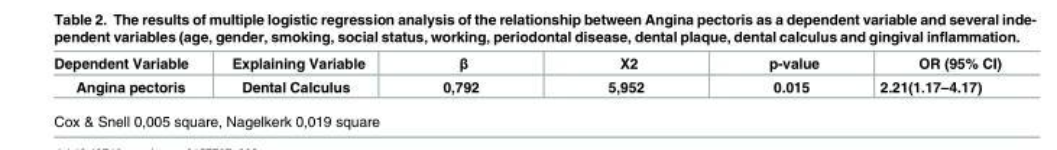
<table><thead><tr><td>Dependent Variable</td><td>Explaining Variable</td><td>β</td><td>X2</td><td>p-value</td><td>OR (95% CI)</td></tr></thead><tbody><tr><td>Angina pectoris</td><td>Dental Calculus</td><td>0,792</td><td>5,952</td><td>0.015</td><td>2.21(1.17–4.17)</td></tr></tbody></table>